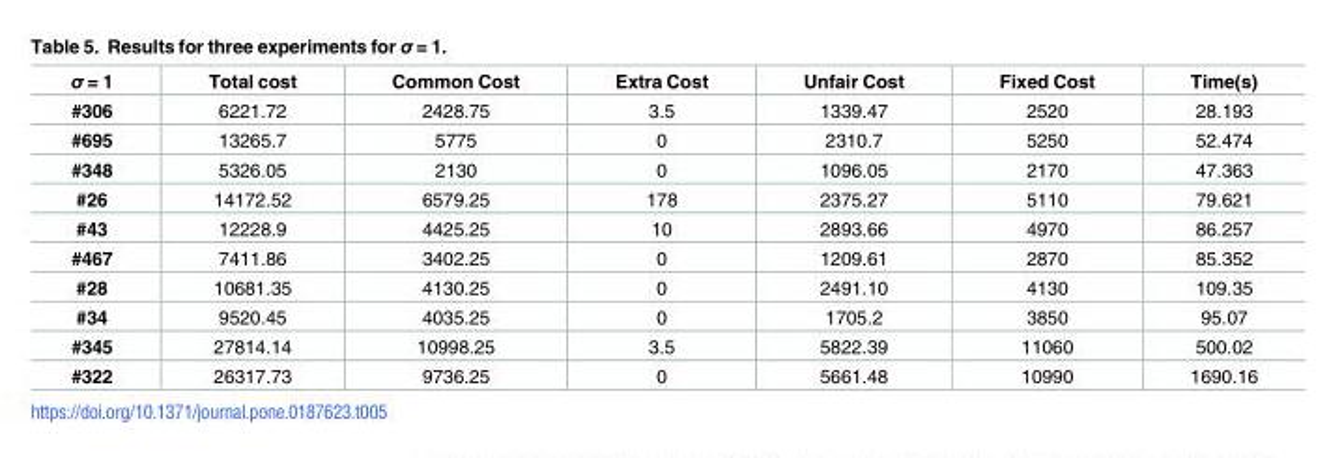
<table><thead><tr><td>σ = 1</td><td>Total cost</td><td>Common Cost</td><td>Extra Cost</td><td>Unfair Cost</td><td>Fixed Cost</td><td>Time(s)</td></tr></thead><tbody><tr><td>#306</td><td>6221.72</td><td>2428.75</td><td>3.5</td><td>1339.47</td><td>2520</td><td>28.193</td></tr><tr><td>#695</td><td>13265.7</td><td>5775</td><td>0</td><td>2310.7</td><td>5250</td><td>52.474</td></tr><tr><td>#348</td><td>5326.05</td><td>2130</td><td>0</td><td>1096.05</td><td>2170</td><td>47.363</td></tr><tr><td>#26</td><td>14172.52</td><td>6579.25</td><td>178</td><td>2375.27</td><td>5110</td><td>79.621</td></tr><tr><td>#43</td><td>12228.9</td><td>4425.25</td><td>10</td><td>2893.66</td><td>4970</td><td>86.257</td></tr><tr><td>#467</td><td>7411.86</td><td>3402.25</td><td>0</td><td>1209.61</td><td>2870</td><td>85.352</td></tr><tr><td>#28</td><td>10681.35</td><td>4130.25</td><td>0</td><td>2491.10</td><td>4130</td><td>109.35</td></tr><tr><td>#34</td><td>9520.45</td><td>4035.25</td><td>0</td><td>1705.2</td><td>3850</td><td>95.07</td></tr><tr><td>#345</td><td>27814.14</td><td>10998.25</td><td>3.5</td><td>5822.39</td><td>11060</td><td>500.02</td></tr><tr><td>#322</td><td>26317.73</td><td>9736.25</td><td>0</td><td>5661.48</td><td>10990</td><td>1690.16</td></tr></tbody></table>